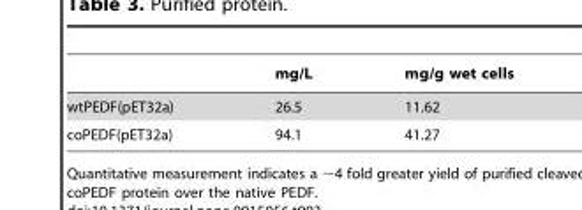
<table><thead><tr><td></td><td>mg/L</td><td>mg/g wet cells</td></tr></thead><tbody><tr><td>wtPEDF(pET32a)</td><td>26.5</td><td>11.62</td></tr><tr><td>coPEDF(pET32a)</td><td>94.1</td><td>41.27</td></tr></tbody></table>